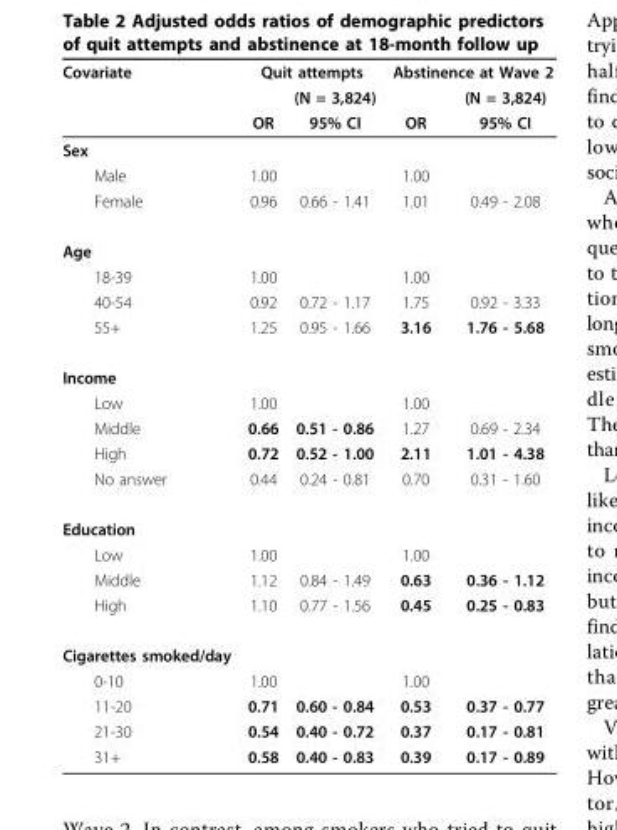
<table><thead><tr><td rowspan="3">Covariate</td><td colspan="2">Quit attempts</td><td colspan="2">Abstinence at Wave 2</td></tr><tr><td rowspan="2">OR</td><td rowspan="2">(N = 3,824) 95% CI</td><td rowspan="2">OR</td><td rowspan="2">(N = 3,824) 95% CI</td></tr><tr></tr></thead><tbody><tr><td colspan="5">Sex</td></tr><tr><td>Male</td><td>1.00</td><td></td><td>1.00</td><td></td></tr><tr><td>Female</td><td>0.96</td><td>0.66 - 1.41</td><td>1.01</td><td>0.49 - 2.08</td></tr><tr><td colspan="5">Age</td></tr><tr><td>18-39</td><td>1.00</td><td></td><td>1.00</td><td></td></tr><tr><td>40-54</td><td>0.92</td><td>0.72 - 1.17</td><td>1.75</td><td>0.92 - 3.33</td></tr><tr><td>55+</td><td>1.25</td><td>0.95 - 1.66</td><td>3.16</td><td>1.76 - 5.68</td></tr><tr><td colspan="5">Income</td></tr><tr><td>Low</td><td>1.00</td><td></td><td>1.00</td><td></td></tr><tr><td>Middle</td><td>0.66</td><td>0.51 - 0.86</td><td>1.27</td><td>0.69 - 2.34</td></tr><tr><td>High</td><td>0.72</td><td>0.52 - 1.00</td><td>2.11</td><td>1.01 - 4.38</td></tr><tr><td>No answer</td><td>0.44</td><td>0.24 - 0.81</td><td>0.70</td><td>0.31 - 1.60</td></tr><tr><td colspan="5">Education</td></tr><tr><td>Low</td><td>1.00</td><td></td><td>1.00</td><td></td></tr><tr><td>Middle</td><td>1.12</td><td>0.84 - 1.49</td><td>0.63</td><td>0.36 - 1.12</td></tr><tr><td>High</td><td>1.10</td><td>0.77 - 1.56</td><td>0.45</td><td>0.25 - 0.83</td></tr><tr><td colspan="5">Cigarettes smoked/day</td></tr><tr><td>0-10</td><td>1.00</td><td></td><td>1.00</td><td></td></tr><tr><td>11-20</td><td>0.71</td><td>0.60 - 0.84</td><td>0.53</td><td>0.37 - 0.77</td></tr><tr><td>21-30</td><td>0.54</td><td>0.40 - 0.72</td><td>0.37</td><td>0.17 - 0.81</td></tr><tr><td>31+</td><td>0.58</td><td>0.40 - 0.83</td><td>0.39</td><td>0.17 - 0.89</td></tr></tbody></table>